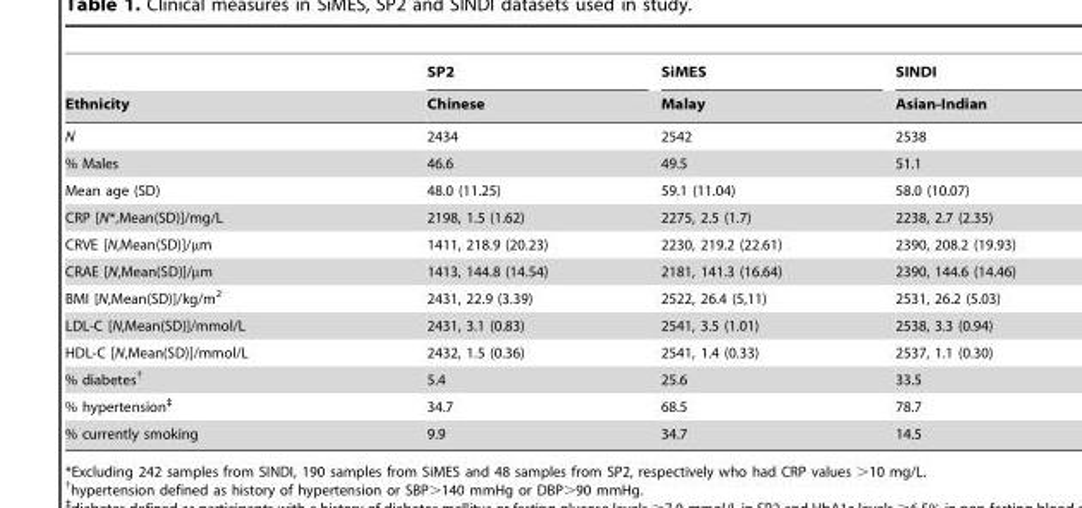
<table><thead><tr><td rowspan="2">Ethnicity</td><td rowspan="2">SP2 Chinese</td><td rowspan="2">SiMES Malay</td><td rowspan="2">SINDI Asian-Indian</td></tr><tr></tr></thead><tbody><tr><td>N</td><td>2434</td><td>2542</td><td>2538</td></tr><tr><td>% Males</td><td>46.6</td><td>49.5</td><td>51.1</td></tr><tr><td>Mean age (SD)</td><td>48.0 (11.25)</td><td>59.1 (11.04)</td><td>58.0 (10.07)</td></tr><tr><td>CRP [N*,Mean(SD)]/mg/L</td><td>2198, 1.5 (1.62)</td><td>2275, 2.5 (1.7)</td><td>2238, 2.7 (2.35)</td></tr><tr><td>CRVE [N,Mean(SD)]/µm</td><td>1411, 218.9 (20.23)</td><td>2230, 219.2 (22.61)</td><td>2390, 208.2 (19.93)</td></tr><tr><td>CRAE [N,Mean(SD)]/µm</td><td>1413, 144.8 (14.54)</td><td>2181, 141.3 (16.64)</td><td>2390, 144.6 (14.46)</td></tr><tr><td>BMI [N,Mean(SD)]/kg/m<sup>2</sup></td><td>2431, 22.9 (3.39)</td><td>2522, 26.4 (5,11)</td><td>2531, 26.2 (5.03)</td></tr><tr><td>LDL-C [N,Mean(SD)]/mmol/L</td><td>2431, 3.1 (0.83)</td><td>2541, 3.5 (1.01)</td><td>2538, 3.3 (0.94)</td></tr><tr><td>HDL-C [N,Mean(SD)]/mmol/L</td><td>2432, 1.5 (0.36)</td><td>2541, 1.4 (0.33)</td><td>2537, 1.1 (0.30)</td></tr><tr><td>% diabetes†</td><td>5.4</td><td>25.6</td><td>33.5</td></tr><tr><td>% hypertension‡</td><td>34.7</td><td>68.5</td><td>78.7</td></tr><tr><td>% currently smoking</td><td>9.9</td><td>34.7</td><td>14.5</td></tr></tbody></table>